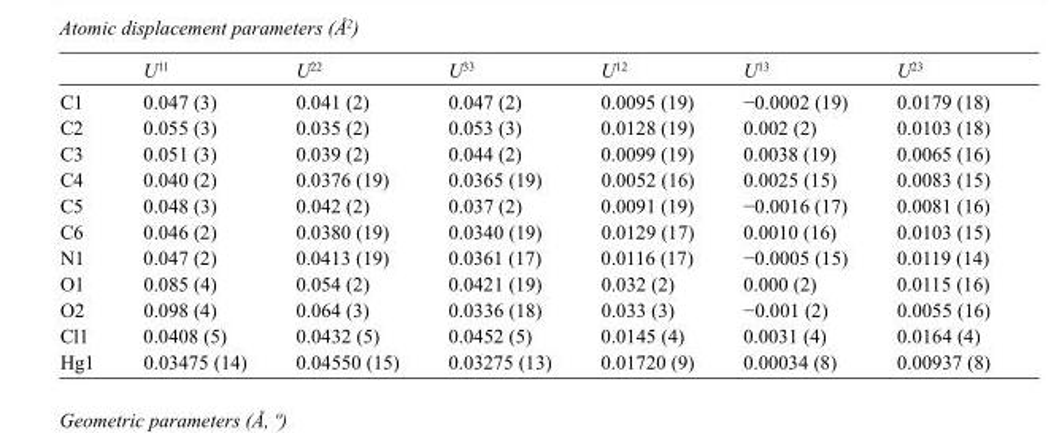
<table><thead><tr><td></td><td>U<sup>11</sup></td><td>U<sup>22</sup></td><td>U<sup>33</sup></td><td>U<sup>12</sup></td><td>U<sup>13</sup></td><td>U<sup>23</sup></td></tr></thead><tbody><tr><td>C1</td><td>0.047 (3)</td><td>0.041 (2)</td><td>0.047 (2)</td><td>0.0095 (19)</td><td>−0.0002 (19)</td><td>0.0179 (18)</td></tr><tr><td>C2</td><td>0.055 (3)</td><td>0.035 (2)</td><td>0.053 (3)</td><td>0.0128 (19)</td><td>0.002 (2)</td><td>0.0103 (18)</td></tr><tr><td>C3</td><td>0.051 (3)</td><td>0.039 (2)</td><td>0.044 (2)</td><td>0.0099 (19)</td><td>0.0038 (19)</td><td>0.0065 (16)</td></tr><tr><td>C4</td><td>0.040 (2)</td><td>0.0376 (19)</td><td>0.0365 (19)</td><td>0.0052 (16)</td><td>0.0025 (15)</td><td>0.0083 (15)</td></tr><tr><td>C5</td><td>0.048 (3)</td><td>0.042 (2)</td><td>0.037 (2)</td><td>0.0091 (19)</td><td>−0.0016 (17)</td><td>0.0081 (16)</td></tr><tr><td>C6</td><td>0.046 (2)</td><td>0.0380 (19)</td><td>0.0340 (19)</td><td>0.0129 (17)</td><td>0.0010 (16)</td><td>0.0103 (15)</td></tr><tr><td>N1</td><td>0.047 (2)</td><td>0.0413 (19)</td><td>0.0361 (17)</td><td>0.0116 (17)</td><td>−0.0005 (15)</td><td>0.0119 (14)</td></tr><tr><td>O1</td><td>0.085 (4)</td><td>0.054 (2)</td><td>0.0421 (19)</td><td>0.032 (2)</td><td>0.000 (2)</td><td>0.0115 (16)</td></tr><tr><td>O2</td><td>0.098 (4)</td><td>0.064 (3)</td><td>0.0336 (18)</td><td>0.033 (3)</td><td>−0.001 (2)</td><td>0.0055 (16)</td></tr><tr><td>Cl1</td><td>0.0408 (5)</td><td>0.0432 (5)</td><td>0.0452 (5)</td><td>0.0145 (4)</td><td>0.0031 (4)</td><td>0.0164 (4)</td></tr><tr><td>Hg1</td><td>0.03475 (14)</td><td>0.04550 (15)</td><td>0.03275 (13)</td><td>0.01720 (9)</td><td>0.00034 (8)</td><td>0.00937 (8)</td></tr></tbody></table>